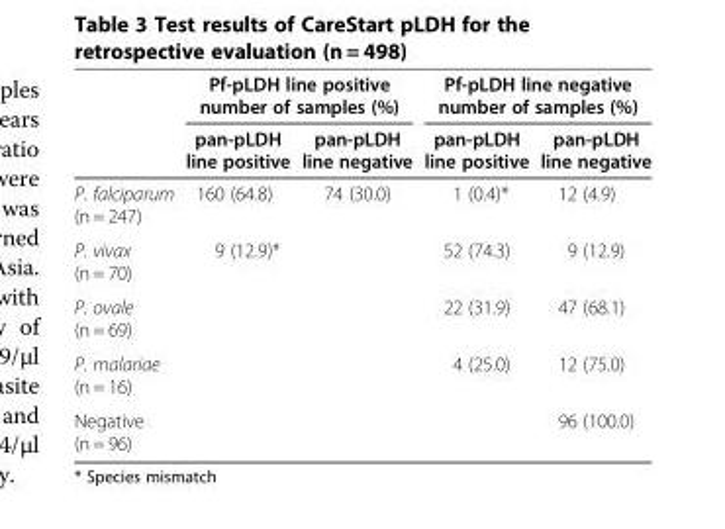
<table><thead><tr><td rowspan="2"></td><td colspan="2">Pf-pLDH line positive number of samples (%)</td><td colspan="2">Pf-pLDH line negative number of samples (%)</td></tr><tr><td>pan-pLDH line positive</td><td>pan-pLDH line negative</td><td>pan-pLDH line positive</td><td>pan-pLDH line negative</td></tr></thead><tbody><tr><td>P. falciparum (n = 247)</td><td>160 (64.8)</td><td>74 (30.0)</td><td>1 (0.4)*</td><td>12 (4.9)</td></tr><tr><td>P. vivax (n = 70)</td><td>9 (12.9)*</td><td></td><td>52 (74.3)</td><td>9 (12.9)</td></tr><tr><td>P. ovale (n = 69)</td><td></td><td></td><td>22 (31.9)</td><td>47 (68.1)</td></tr><tr><td>P. malariae (n = 16)</td><td></td><td></td><td>4 (25.0)</td><td>12 (75.0)</td></tr><tr><td>Negative (n = 96)</td><td></td><td></td><td></td><td>96 (100.0)</td></tr></tbody></table>